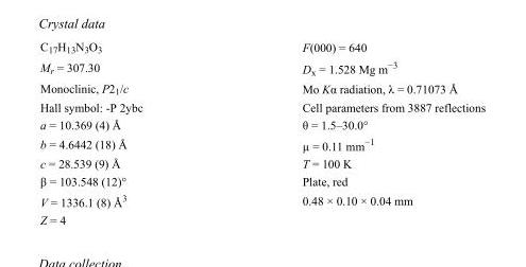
<table><tbody><tr><td>C<sub>17</sub>H<sub>13</sub>N<sub>3</sub>O<sub>3</sub></td><td>F(000) = 640</td></tr><tr><td>M<sub>r</sub> = 307.30</td><td>D<sub>x</sub> = 1.528 Mg m<sup>−3</sup></td></tr><tr><td>Monoclinic, P2<sub>1</sub>/c</td><td>Mo Kα radiation, λ = 0.71073 Å</td></tr><tr><td>Hall symbol: -P 2ybc</td><td>Cell parameters from 3887 reflections</td></tr><tr><td>a = 10.369 (4) Å</td><td>θ = 1.5–30.0°</td></tr><tr><td>b = 4.6442 (18) Å</td><td>µ = 0.11 mm<sup>−1</sup></td></tr><tr><td>c = 28.539 (9) Å</td><td>T = 100 K</td></tr><tr><td>β = 103.548 (12)°</td><td>Plate, red</td></tr><tr><td>V = 1336.1 (8) Å<sup>3</sup></td><td>0.48 × 0.10 × 0.04 mm</td></tr><tr><td>Z = 4</td><td></td></tr></tbody></table>